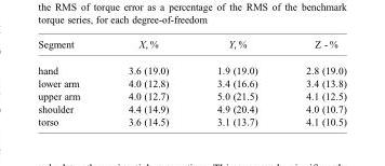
<table><thead><tr><td>Segment</td><td>X, %</td><td>Y, %</td><td>Z - %</td></tr></thead><tbody><tr><td>hand</td><td>3.6 (19.0)</td><td>1.9 (19.0)</td><td>2.8 (19.0)</td></tr><tr><td>lower arm</td><td>4.0 (12.8)</td><td>3.4 (16.6)</td><td>3.4 (13.8)</td></tr><tr><td>upper arm</td><td>4.0 (12.7)</td><td>5.0 (21.5)</td><td>4.1 (12.5)</td></tr><tr><td>shoulder</td><td>4.4 (14.9)</td><td>4.9 (20.4)</td><td>4.0 (10.7)</td></tr><tr><td>torso</td><td>3.6 (14.5)</td><td>3.1 (13.7)</td><td>4.1 (10.5)</td></tr></tbody></table>